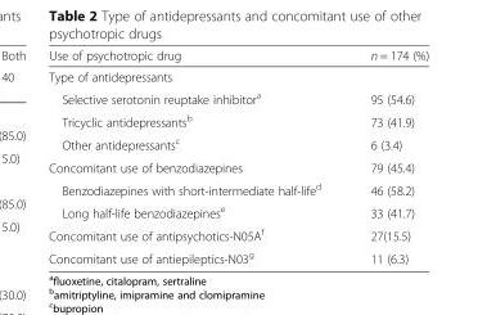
<table><thead><tr><td>Use of psychotropic drug</td><td>n = 174 (%)</td></tr></thead><tbody><tr><td colspan="2">Type of antidepressants</td></tr><tr><td>Selective serotonin reuptake inhibitor<sup>a</sup></td><td>95 (54.6)</td></tr><tr><td>Tricyclic antidepressants<sup>b</sup></td><td>73 (41.9)</td></tr><tr><td>Other antidepressants<sup>c</sup></td><td>6 (3.4)</td></tr><tr><td>Concomitant use of benzodiazepines</td><td>79 (45.4)</td></tr><tr><td>Benzodiazepines with short-intermediate half-life<sup>d</sup></td><td>46 (58.2)</td></tr><tr><td>Long half-life benzodiazepines<sup>e</sup></td><td>33 (41.7)</td></tr><tr><td>Concomitant use of antipsychotics-N05A<sup>f</sup></td><td>27(15.5)</td></tr><tr><td>Concomitant use of antiepileptics-N03<sup>g</sup></td><td>11 (6.3)</td></tr></tbody></table>